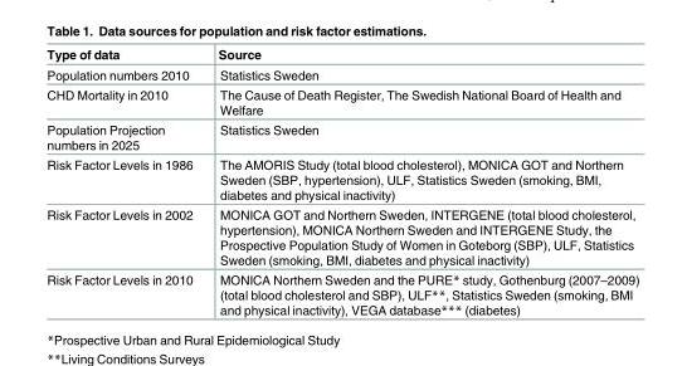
<table><thead><tr><td>Type of data</td><td>Source</td></tr></thead><tbody><tr><td>Population numbers 2010</td><td>Statistics Sweden</td></tr><tr><td>CHD Mortality in 2010</td><td>The Cause of Death Register, The Swedish National Board of Health and Welfare</td></tr><tr><td>Population Projection numbers in 2025</td><td>Statistics Sweden</td></tr><tr><td>Risk Factor Levels in 1986</td><td>The AMORIS Study (total blood cholesterol), MONICA GOT and Northern Sweden (SBP, hypertension), ULF, Statistics Sweden (smoking, BMI, diabetes and physical inactivity)</td></tr><tr><td>Risk Factor Levels in 2002</td><td>MONICA GOT and Northern Sweden, INTERGENE (total blood cholesterol, hypertension), MONICA Northern Sweden and INTERGENE Study, the Prospective Population Study of Women in Goteborg (SBP), ULF, Statistics Sweden (smoking, BMI, diabetes and physical inactivity)</td></tr><tr><td>Risk Factor Levels in 2010</td><td>MONICA Northern Sweden and the PURE* study, Gothenburg (2007–2009) (total blood cholesterol and SBP), ULF**, Statistics Sweden (smoking, BMI and physical inactivity), VEGA database*** (diabetes)</td></tr></tbody></table>